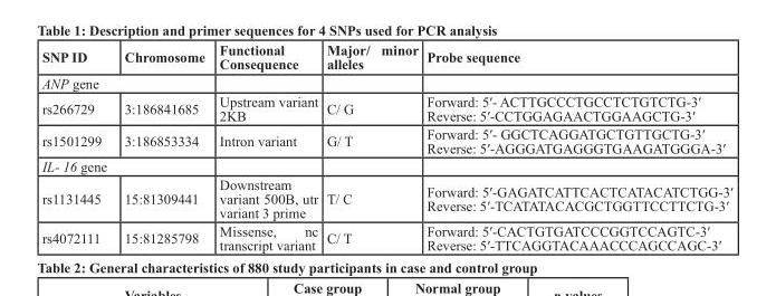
<table><thead><tr><td>SNP ID</td><td>Chromosome</td><td>Functional Consequence</td><td>Major/ minor alleles</td><td>Probe sequence</td></tr></thead><tbody><tr><td colspan="5">ANP gene</td></tr><tr><td>rs266729</td><td>3:186841685</td><td>Upstream variant 2KB</td><td>C/ G</td><td>Forward: 5′- ACTTGCCCTGCCTCTGTCTG-3′ Reverse: 5′-CCTGGAGAACTGGAAGCTG-3′</td></tr><tr><td>rs1501299</td><td>3:186853334</td><td>Intron variant</td><td>G/ T</td><td>Forward: 5′- GGCTCAGGATGCTGTTGCTG-3′ Reverse: 5′-AGGGATGAGGGTGAAGATGGGA-3′</td></tr><tr><td colspan="5">IL- 16 gene</td></tr><tr><td>rs1131445</td><td>15:81309441</td><td>Downstream variant 500B, utr variant 3 prime</td><td>T/ C</td><td>Forward: 5′-GAGATCATTCACTCATACATCTGG-3′ Reverse: 5′-TCATATACACGCTGGTTCCTTCTG-3′</td></tr><tr><td>rs4072111</td><td>15:81285798</td><td>Missense, nc transcript variant</td><td>C/ T</td><td>Forward: 5′-CACTGTGATCCCGGTCCAGTC-3′ Reverse: 5′-TTCAGGTACAAACCCAGCCAGC-3′</td></tr></tbody></table>